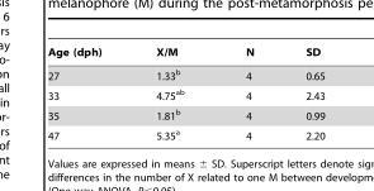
<table><thead><tr><td>Age (dph)</td><td>X/M</td><td>N</td><td>SD</td></tr></thead><tbody><tr><td>27</td><td>1.33<sup>b</sup></td><td>4</td><td>0.65</td></tr><tr><td>33</td><td>4.75<sup>ab</sup></td><td>4</td><td>2.43</td></tr><tr><td>35</td><td>1.81<sup>b</sup></td><td>4</td><td>0.99</td></tr><tr><td>47</td><td>5.35<sup>a</sup></td><td>4</td><td>2.20</td></tr></tbody></table>